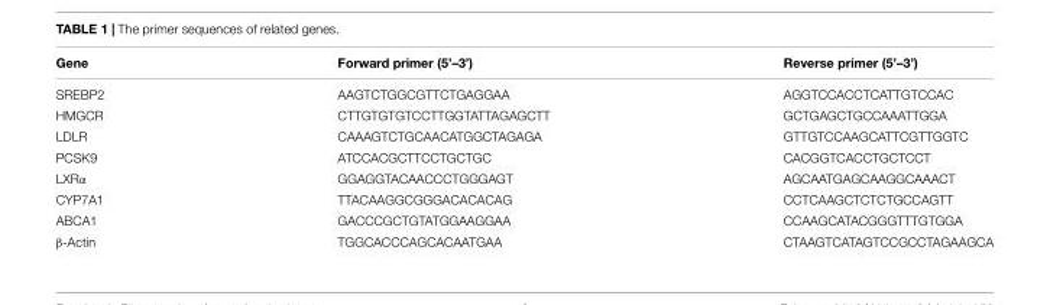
<table><thead><tr><td>Gene</td><td>Forward primer (5’–3’)</td><td>Reverse primer (5’–3’)</td></tr></thead><tbody><tr><td>SREBP2</td><td>AAGTCTGGCGTTCTGAGGAA</td><td>AGGTCCACCTCATTGTCCAC</td></tr><tr><td>HMGCR</td><td>CTTGTGTGTCCTTGGTATTAGAGCTT</td><td>GCTGAGCTGCCAAATTGGA</td></tr><tr><td>LDLR</td><td>CAAAGTCTGCAACATGGCTAGAGA</td><td>GTTGTCCAAGCATTCGTTGGTC</td></tr><tr><td>PCSK9</td><td>ATCCACGCTTCCTGCTGC</td><td>CACGGTCACCTGCTCCT</td></tr><tr><td>LXRα</td><td>GGAGGTACAACCCTGGGAGT</td><td>AGCAATGAGCAAGGCAAACT</td></tr><tr><td>CYP7A1</td><td>TTACAAGGCGGGACACACAG</td><td>CCTCAAGCTCTCTGCCAGTT</td></tr><tr><td>ABCA1</td><td>GACCCGCTGTATGGAAGGAA</td><td>CCAAGCATACGGGTTTGTGGA</td></tr><tr><td>β-Actin</td><td>TGGCACCCAGCACAATGAA</td><td>CTAAGTCATAGTCCGCCTAGAAGCA</td></tr></tbody></table>